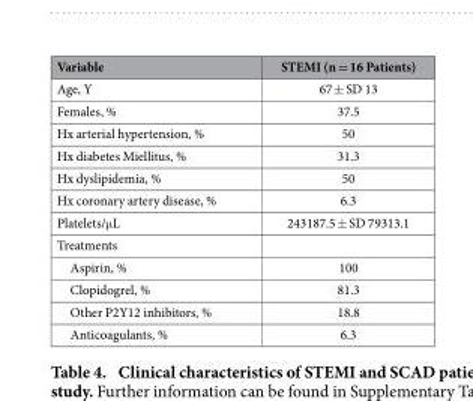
<table><thead><tr><td>Variable</td><td>STEMI (n = 16 Patients)</td></tr></thead><tbody><tr><td>Age, Y</td><td>67 ± SD 13</td></tr><tr><td>Females, %</td><td>37.5</td></tr><tr><td>Hx arterial hypertension, %</td><td>50</td></tr><tr><td>Hx diabetes Miellitus, %</td><td>31.3</td></tr><tr><td>Hx dyslipidemia, %</td><td>50</td></tr><tr><td>Hx coronary artery disease, %</td><td>6.3</td></tr><tr><td>Platelets/μ L</td><td>243187.5 ± SD 79313.1</td></tr><tr><td colspan="2">Treatments</td></tr><tr><td>Aspirin, %</td><td>100</td></tr><tr><td>Clopidogrel, %</td><td>81.3</td></tr><tr><td>Other P2Y12 inhibitors, %</td><td>18.8</td></tr><tr><td>Anticoagulants, %</td><td>6.3</td></tr></tbody></table>